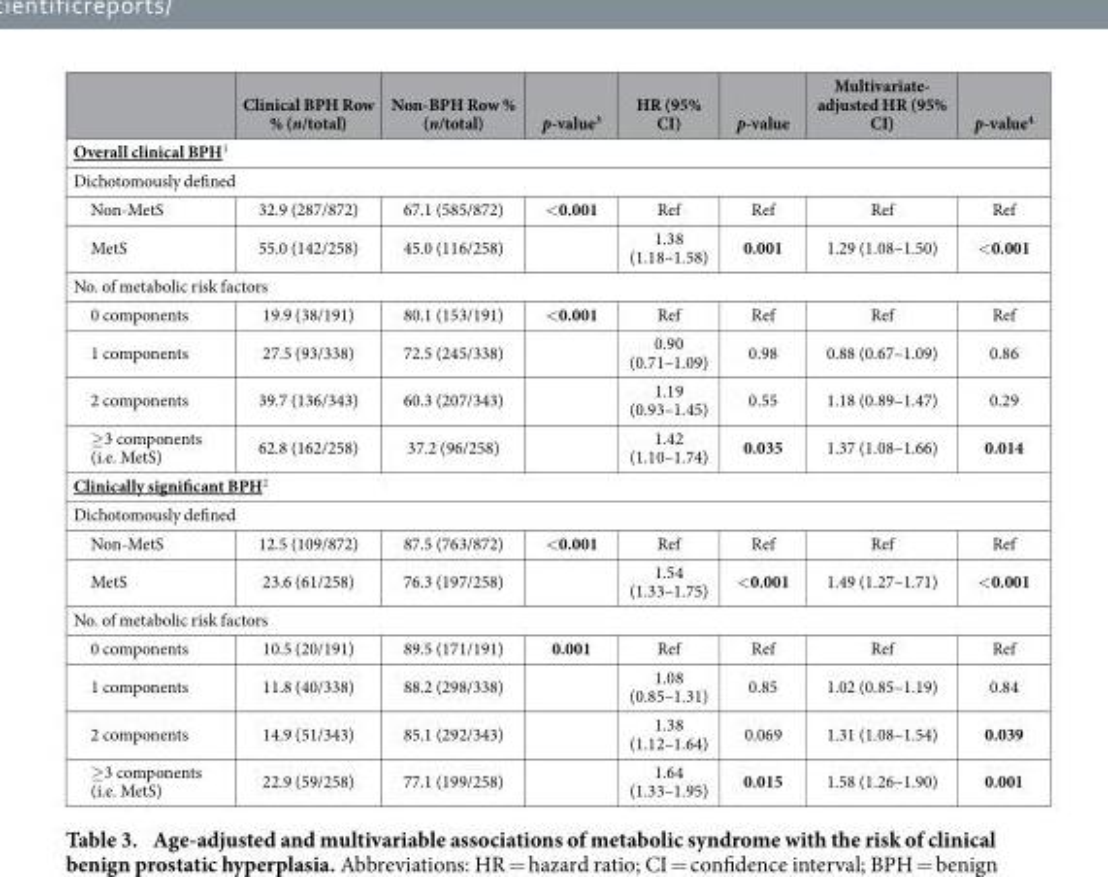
<table><thead><tr><td></td><td>Clinical BPH Row % (n/total)</td><td>Non-BPH Row % (n/total)</td><td>p-value<sup>3</sup></td><td>HR (95% CI)</td><td>p-value</td><td>Multivariate- adjusted HR (95% CI)</td><td>p-value<sup>4</sup></td></tr></thead><tbody><tr><td colspan="8">Overall clinical BPH<sup>1</sup></td></tr><tr><td colspan="8">Dichotomously defined</td></tr><tr><td>Non-MetS</td><td>32.9 (287/872)</td><td>67.1 (585/872)</td><td>&lt; 0.001</td><td>Ref</td><td>Ref</td><td>Ref</td><td>Ref</td></tr><tr><td>MetS</td><td>55.0 (142/258)</td><td>45.0 (116/258)</td><td></td><td>1.38 (1.18–1.58)</td><td>0.001</td><td>1.29 (1.08–1.50)</td><td>&lt; 0.001</td></tr><tr><td colspan="8">No. of metabolic risk factors</td></tr><tr><td>0 components</td><td>19.9 (38/191)</td><td>80.1 (153/191)</td><td>&lt; 0.001</td><td>Ref</td><td>Ref</td><td>Ref</td><td>Ref</td></tr><tr><td>1 components</td><td>27.5 (93/338)</td><td>72.5 (245/338)</td><td></td><td>0.90 (0.71–1.09)</td><td>0.98</td><td>0.88 (0.67–1.09)</td><td>0.86</td></tr><tr><td>2 components</td><td>39.7 (136/343)</td><td>60.3 (207/343)</td><td></td><td>1.19 (0.93–1.45)</td><td>0.55</td><td>1.18 (0.89–1.47)</td><td>0.29</td></tr><tr><td>≥ 3 components (i.e. MetS)</td><td>62.8 (162/258)</td><td>37.2 (96/258)</td><td></td><td>1.42 (1.10–1.74)</td><td>0.035</td><td>1.37 (1.08–1.66)</td><td>0.014</td></tr><tr><td colspan="8">Clinically significant BPH<sup>2</sup></td></tr><tr><td colspan="8">Dichotomously defined</td></tr><tr><td>Non-MetS</td><td>12.5 (109/872)</td><td>87.5 (763/872)</td><td>&lt; 0.001</td><td>Ref</td><td>Ref</td><td>Ref</td><td>Ref</td></tr><tr><td>MetS</td><td>23.6 (61/258)</td><td>76.3 (197/258)</td><td></td><td>1.54 (1.33–1.75)</td><td>&lt; 0.001</td><td>1.49 (1.27–1.71)</td><td>&lt; 0.001</td></tr><tr><td colspan="8">No. of metabolic risk factors</td></tr><tr><td>0 components</td><td>10.5 (20/191)</td><td>89.5 (171/191)</td><td>0.001</td><td>Ref</td><td>Ref</td><td>Ref</td><td>Ref</td></tr><tr><td>1 components</td><td>11.8 (40/338)</td><td>88.2 (298/338)</td><td></td><td>1.08 (0.85–1.31)</td><td>0.85</td><td>1.02 (0.85–1.19)</td><td>0.84</td></tr><tr><td>2 components</td><td>14.9 (51/343)</td><td>85.1 (292/343)</td><td></td><td>1.38 (1.12–1.64)</td><td>0.069</td><td>1.31 (1.08–1.54)</td><td>0.039</td></tr><tr><td>≥ 3 components (i.e. MetS)</td><td>22.9 (59/258)</td><td>77.1 (199/258)</td><td></td><td>1.64 (1.33–1.95)</td><td>0.015</td><td>1.58 (1.26–1.90)</td><td>0.001</td></tr></tbody></table>